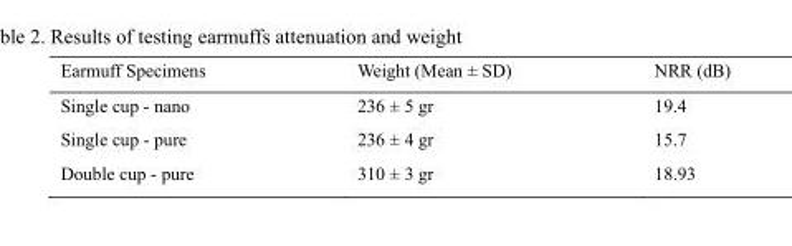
<table><thead><tr><td>Earmuff Specimens</td><td>Weight (Mean ± SD)</td><td>NRR (dB)</td></tr></thead><tbody><tr><td>Single cup - nano</td><td>236 ± 5 gr</td><td>19.4</td></tr><tr><td>Single cup - pure</td><td>236 ± 4 gr</td><td>15.7</td></tr><tr><td>Double cup - pure</td><td>310 ± 3 gr</td><td>18.93</td></tr></tbody></table>